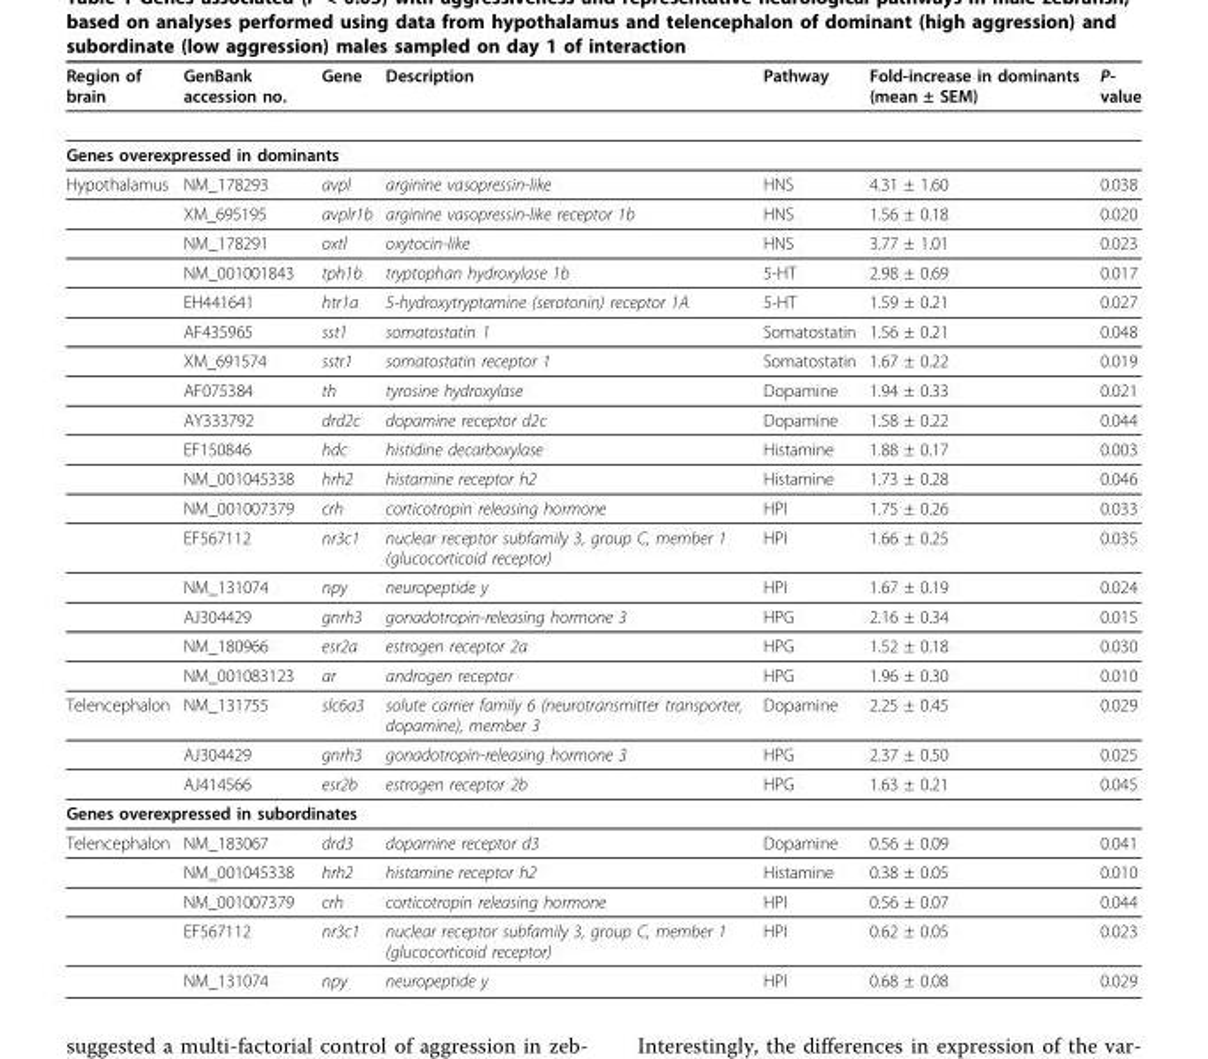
<table><thead><tr><td>Region of brain</td><td>GenBank accession no.</td><td>Gene</td><td>Description</td><td>Pathway</td><td>Fold-increase in dominants (mean ± SEM)</td><td>P- value</td></tr></thead><tbody><tr><td colspan="7">Genes overexpressed in dominants</td></tr><tr><td rowspan="17">Hypothalamus</td><td>NM_178293</td><td>avpl</td><td>arginine vasopressin-like</td><td>HNS</td><td>4.31 ± 1.60</td><td>0.038</td></tr><tr><td>XM_695195</td><td>avplr1b</td><td>arginine vasopressin-like receptor 1b</td><td>HNS</td><td>1.56 ± 0.18</td><td>0.020</td></tr><tr><td>NM_178291</td><td>oxtl</td><td>oxytocin-like</td><td>HNS</td><td>3.77 ± 1.01</td><td>0.023</td></tr><tr><td>NM_001001843</td><td>tph1b</td><td>tryptophan hydroxylase 1b</td><td>5-HT</td><td>2.98 ± 0.69</td><td>0.017</td></tr><tr><td>EH441641</td><td>htr1a</td><td>5-hydroxytryptamine (serotonin) receptor 1A</td><td>5-HT</td><td>1.59 ± 0.21</td><td>0.027</td></tr><tr><td>AF435965</td><td>sst1</td><td>somatostatin 1</td><td>Somatostatin</td><td>1.56 ± 0.21</td><td>0.048</td></tr><tr><td>XM_691574</td><td>sstr1</td><td>somatostatin receptor 1</td><td>Somatostatin</td><td>1.67 ± 0.22</td><td>0.019</td></tr><tr><td>AF075384</td><td>th</td><td>tyrosine hydroxylase</td><td>Dopamine</td><td>1.94 ± 0.33</td><td>0.021</td></tr><tr><td>AY333792</td><td>drd2c</td><td>dopamine receptor d2c</td><td>Dopamine</td><td>1.58 ± 0.22</td><td>0.044</td></tr><tr><td>EF150846</td><td>hdc</td><td>histidine decarboxylase</td><td>Histamine</td><td>1.88 ± 0.17</td><td>0.003</td></tr><tr><td>NM_001045338</td><td>hrh2</td><td>histamine receptor h2</td><td>Histamine</td><td>1.73 ± 0.28</td><td>0.046</td></tr><tr><td>NM_001007379</td><td>crh</td><td>corticotropin releasing hormone</td><td>HPI</td><td>1.75 ± 0.26</td><td>0.033</td></tr><tr><td>EF567112</td><td>nr3c1</td><td>nuclear receptor subfamily 3, group C, member 1 (glucocorticoid receptor)</td><td>HPI</td><td>1.66 ± 0.25</td><td>0.035</td></tr><tr><td>NM_131074</td><td>npy</td><td>neuropeptide y</td><td>HPI</td><td>1.67 ± 0.19</td><td>0.024</td></tr><tr><td>AJ304429</td><td>gnrh3</td><td>gonadotropin-releasing hormone 3</td><td>HPG</td><td>2.16 ± 0.34</td><td>0.015</td></tr><tr><td>NM_180966</td><td>esr2a</td><td>estrogen receptor 2a</td><td>HPG</td><td>1.52 ± 0.18</td><td>0.030</td></tr><tr><td>NM_001083123</td><td>ar</td><td>androgen receptor</td><td>HPG</td><td>1.96 ± 0.30</td><td>0.010</td></tr><tr><td rowspan="3">Telencephalon</td><td>NM_131755</td><td>slc6a3</td><td>solute carrier family 6 (neurotransmitter transporter, dopamine), member 3</td><td>Dopamine</td><td>2.25 ± 0.45</td><td>0.029</td></tr><tr><td>AJ304429</td><td>gnrh3</td><td>gonadotropin-releasing hormone 3</td><td>HPG</td><td>2.37 ± 0.50</td><td>0.025</td></tr><tr><td>AJ414566</td><td>esr2b</td><td>estrogen receptor 2b</td><td>HPG</td><td>1.63 ± 0.21</td><td>0.045</td></tr><tr><td colspan="7">Genes overexpressed in subordinates</td></tr><tr><td rowspan="5">Telencephalon</td><td>NM_183067</td><td>drd3</td><td>dopamine receptor d3</td><td>Dopamine</td><td>0.56 ± 0.09</td><td>0.041</td></tr><tr><td>NM_001045338</td><td>hrh2</td><td>histamine receptor h2</td><td>Histamine</td><td>0.38 ± 0.05</td><td>0.010</td></tr><tr><td>NM_001007379</td><td>crh</td><td>corticotropin releasing hormone</td><td>HPI</td><td>0.56 ± 0.07</td><td>0.044</td></tr><tr><td>EF567112</td><td>nr3c1</td><td>nuclear receptor subfamily 3, group C, member 1 (glucocorticoid receptor)</td><td>HPI</td><td>0.62 ± 0.05</td><td>0.023</td></tr><tr><td>NM_131074</td><td>npy</td><td>neuropeptide y</td><td>HPI</td><td>0.68 ± 0.08</td><td>0.029</td></tr></tbody></table>